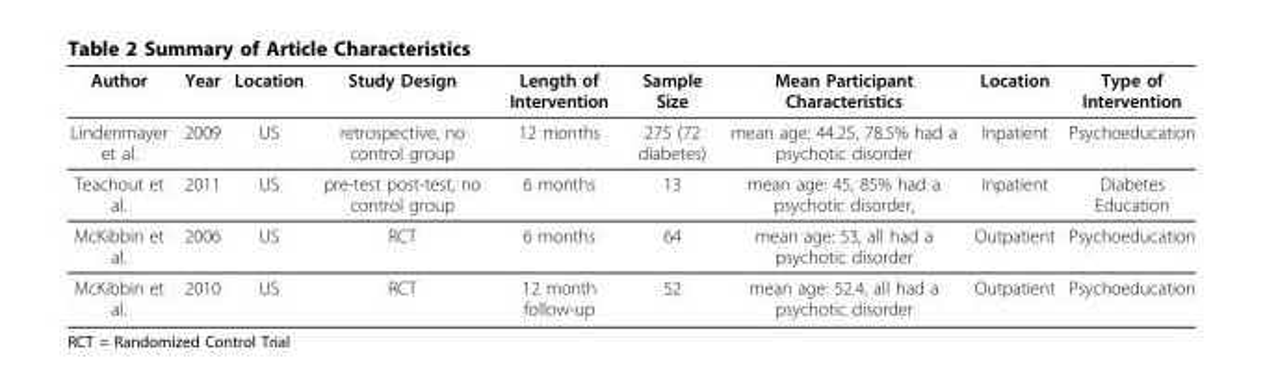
<table><thead><tr><td>Author</td><td>Year</td><td>Location</td><td>Study Design</td><td>Length of Intervention</td><td>Sample Size</td><td>Mean Participant Characteristics</td><td>Location</td><td>Type of Intervention</td></tr></thead><tbody><tr><td>Lindenmayer et al.</td><td>2009</td><td>US</td><td>retrospective, no control group</td><td>12 months</td><td>275 (72 diabetes)</td><td>mean age: 44.25, 78.5% had a psychotic disorder</td><td>Inpatient</td><td>Psychoeducation</td></tr><tr><td>Teachout et al.</td><td>2011</td><td>US</td><td>pre-test post-test, no control group</td><td>6 months</td><td>13</td><td>mean age: 45, 85% had a psychotic disorder,</td><td>Inpatient</td><td>Diabetes Education</td></tr><tr><td>McKibbin et al.</td><td>2006</td><td>US</td><td>RCT</td><td>6 months</td><td>64</td><td>mean age: 53, all had a psychotic disorder</td><td>Outpatient</td><td>Psychoeducation</td></tr><tr><td>McKibbin et al.</td><td>2010</td><td>US</td><td>RCT</td><td>12 month follow-up</td><td>52</td><td>mean age: 52.4, all had a psychotic disorder</td><td>Outpatient</td><td>Psychoeducation</td></tr></tbody></table>